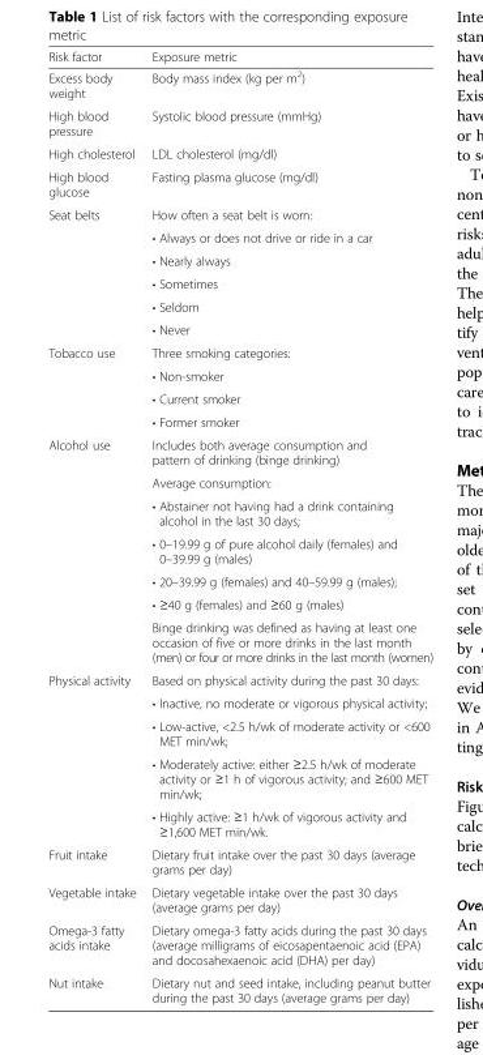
<table><thead><tr><td>Risk factor</td><td>Exposure metric</td></tr></thead><tbody><tr><td>Excess body weight</td><td>Body mass index (kg per m<sup>2</sup>)</td></tr><tr><td>High blood pressure</td><td>Systolic blood pressure (mmHg)</td></tr><tr><td>High cholesterol</td><td>LDL cholesterol (mg/dl)</td></tr><tr><td>High blood glucose</td><td>Fasting plasma glucose (mg/dl)</td></tr><tr><td rowspan="6">Seat belts</td><td>How often a seat belt is worn:</td></tr><tr><td>• Always or does not drive or ride in a car</td></tr><tr><td>• Nearly always</td></tr><tr><td>• Sometimes</td></tr><tr><td>• Seldom</td></tr><tr><td>• Never</td></tr><tr><td rowspan="4">Tobacco use</td><td>Three smoking categories:</td></tr><tr><td>• Non-smoker</td></tr><tr><td>• Current smoker</td></tr><tr><td>• Former smoker</td></tr><tr><td rowspan="7">Alcohol use</td><td>Includes both average consumption and pattern of drinking (binge drinking)</td></tr><tr><td>Average consumption:</td></tr><tr><td>• Abstainer not having had a drink containing alcohol in the last 30 days;</td></tr><tr><td>• 0–19.99 g of pure alcohol daily (females) and 0–39.99 g (males)</td></tr><tr><td>• 20–39.99 g (females) and 40–59.99 g (males);</td></tr><tr><td>• ≥40 g (females) and ≥60 g (males)</td></tr><tr><td>Binge drinking was defined as having at least one occasion of five or more drinks in the last month (men) or four or more drinks in the last month (women)</td></tr><tr><td rowspan="5">Physical activity</td><td>Based on physical activity during the past 30 days:</td></tr><tr><td>• Inactive, no moderate or vigorous physical activity;</td></tr><tr><td>• Low-active, &lt;2.5 h/wk of moderate activity or &lt;600 MET min/wk;</td></tr><tr><td>• Moderately active: either ≥2.5 h/wk of moderate activity or ≥1 h of vigorous activity; and ≥600 MET min/wk;</td></tr><tr><td>• Highly active: ≥1 h/wk of vigorous activity and ≥1,600 MET min/wk.</td></tr><tr><td>Fruit intake</td><td>Dietary fruit intake over the past 30 days (average grams per day)</td></tr><tr><td>Vegetable intake</td><td>Dietary vegetable intake over the past 30 days (average grams per day)</td></tr><tr><td>Omega-3 fatty acids intake</td><td>Dietary omega-3 fatty acids during the past 30 days (average milligrams of eicosapentaenoic acid (EPA) and docosahexaenoic acid (DHA) per day)</td></tr><tr><td>Nut intake</td><td>Dietary nut and seed intake, including peanut butter during the past 30 days (average grams per day)</td></tr></tbody></table>